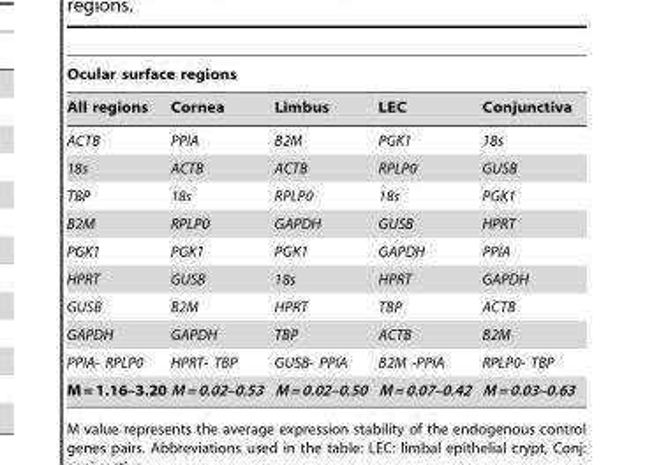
<table><thead><tr><td colspan="5">Ocular surface regions</td></tr><tr><td>All regions</td><td>Cornea</td><td>Limbus</td><td>LEC</td><td>Conjunctiva</td></tr></thead><tbody><tr><td>ACTB</td><td>PPIA</td><td>B2M</td><td>PGK1</td><td>18s</td></tr><tr><td>18s</td><td>ACTB</td><td>ACTB</td><td>RPLP0</td><td>GUSB</td></tr><tr><td>TBP</td><td>18s</td><td>RPLP0</td><td>18s</td><td>PGK1</td></tr><tr><td>B2M</td><td>RPLP0</td><td>GAPDH</td><td>GUSB</td><td>HPRT</td></tr><tr><td>PGK1</td><td>PGK1</td><td>PGK1</td><td>GAPDH</td><td>PPIA</td></tr><tr><td>HPRT</td><td>GUSB</td><td>18s</td><td>HPRT</td><td>GAPDH</td></tr><tr><td>GUSB</td><td>B2M</td><td>HPRT</td><td>TBP</td><td>ACTB</td></tr><tr><td>GAPDH</td><td>GAPDH</td><td>TBP</td><td>ACTB</td><td>B2M</td></tr><tr><td>PPIA- RPLP0</td><td>HPRT- TBP</td><td>GUSB- PPIA</td><td>B2M -PPIA</td><td>RPLP0- TBP</td></tr><tr><td>M = 1.16–3.20</td><td>M = 0.02–0.53</td><td>M = 0.02–0.50</td><td>M = 0.07–0.42</td><td>M = 0.03–0.63</td></tr></tbody></table>